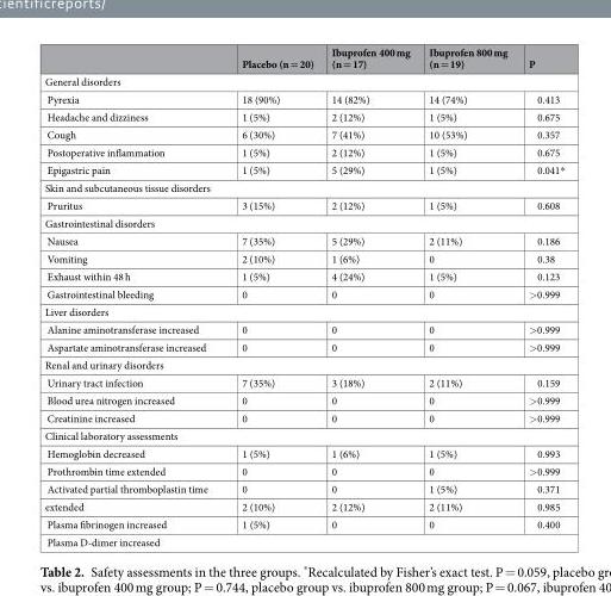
<table><thead><tr><td></td><td>Placebo (n = 20)</td><td>Ibuprofen 400 mg (n = 17)</td><td>Ibuprofen 800 mg (n = 19)</td><td>P</td></tr></thead><tbody><tr><td colspan="5">General disorders</td></tr><tr><td>Pyrexia</td><td>18 (90%)</td><td>14 (82%)</td><td>14 (74%)</td><td>0.413</td></tr><tr><td>Headache and dizziness</td><td>1 (5%)</td><td>2 (12%)</td><td>1 (5%)</td><td>0.675</td></tr><tr><td>Cough</td><td>6 (30%)</td><td>7 (41%)</td><td>10 (53%)</td><td>0.357</td></tr><tr><td>Postoperative inflammation</td><td>1 (5%)</td><td>2 (12%)</td><td>1 (5%)</td><td>0.675</td></tr><tr><td>Epigastric pain</td><td>1 (5%)</td><td>5 (29%)</td><td>1 (5%)</td><td>0.041*</td></tr><tr><td colspan="5">Skin and subcutaneous tissue disorders</td></tr><tr><td>Pruritus</td><td>3 (15%)</td><td>2 (12%)</td><td>1 (5%)</td><td>0.608</td></tr><tr><td colspan="5">Gastrointestinal disorders</td></tr><tr><td>Nausea</td><td>7 (35%)</td><td>5 (29%)</td><td>2 (11%)</td><td>0.186</td></tr><tr><td>Vomiting</td><td>2 (10%)</td><td>1 (6%)</td><td>0</td><td>0.38</td></tr><tr><td>Exhaust within 48 h</td><td>1 (5%)</td><td>4 (24%)</td><td>1 (5%)</td><td>0.123</td></tr><tr><td>Gastrointestinal bleeding</td><td>0</td><td>0</td><td>0</td><td>&gt;0.999</td></tr><tr><td colspan="5">Liver disorders</td></tr><tr><td>Alanine aminotransferase increased</td><td>0</td><td>0</td><td>0</td><td>&gt;0.999</td></tr><tr><td>Aspartate aminotransferase increased</td><td>0</td><td>0</td><td>0</td><td>&gt;0.999</td></tr><tr><td colspan="5">Renal and urinary disorders</td></tr><tr><td>Urinary tract infection</td><td>7 (35%)</td><td>3 (18%)</td><td>2 (11%)</td><td>0.159</td></tr><tr><td>Blood urea nitrogen increased</td><td>0</td><td>0</td><td>0</td><td>&gt;0.999</td></tr><tr><td>Creatinine increased</td><td>0</td><td>0</td><td>0</td><td>&gt;0.999</td></tr><tr><td colspan="5">Clinical laboratory assessments</td></tr><tr><td>Hemoglobin decreased</td><td>1 (5%)</td><td>1 (6%)</td><td>1 (5%)</td><td>0.993</td></tr><tr><td>Prothrombin time extended</td><td>0</td><td>0</td><td>0</td><td>&gt;0.999</td></tr><tr><td>Activated partial thromboplastin time</td><td>0</td><td>0</td><td>1 (5%)</td><td>0.371</td></tr><tr><td>extended</td><td>2 (10%)</td><td>2 (12%)</td><td>2 (11%)</td><td>0.985</td></tr><tr><td>Plasma fibrinogen increased</td><td>1 (5%)</td><td>0</td><td>0</td><td>0.400</td></tr><tr><td colspan="5">Plasma D-dimer increased</td></tr></tbody></table>